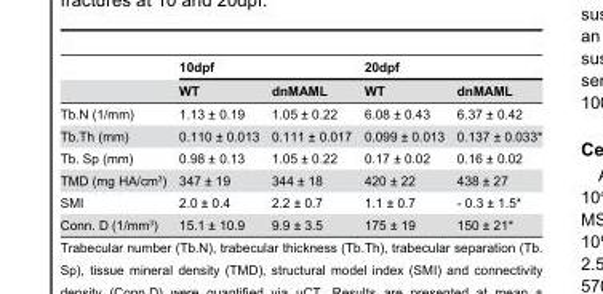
<table><thead><tr><td rowspan="2"></td><td colspan="2">10dpf</td><td colspan="2">20dpf</td></tr><tr><td>WT</td><td>dnMAML</td><td>WT</td><td>dnMAML</td></tr></thead><tbody><tr><td>Tb.N (1/mm)</td><td>1.13 ± 0.19</td><td>1.05 ± 0.22</td><td>6.08 ± 0.43</td><td>6.37 ± 0.42</td></tr><tr><td>Tb.Th (mm)</td><td>0.110 ± 0.013</td><td>0.111 ± 0.017</td><td>0.099 ± 0.013</td><td>0.137 ± 0.033*</td></tr><tr><td>Tb. Sp (mm)</td><td>0.98 ± 0.13</td><td>1.05 ± 0.22</td><td>0.17 ± 0.02</td><td>0.16 ± 0.02</td></tr><tr><td>TMD (mg HA/cm<sup>3</sup>)</td><td>347 ± 19</td><td>344 ± 18</td><td>420 ± 22</td><td>438 ± 27</td></tr><tr><td>SMI</td><td>2.0 ± 0.4</td><td>2.2 ± 0.7</td><td>1.1 ± 0.7</td><td>- 0.3 ± 1.5*</td></tr><tr><td>Conn. D (1/mm<sup>3</sup>)</td><td>15.1 ± 10.9</td><td>9.9 ± 3.5</td><td>175 ± 19</td><td>150 ± 21*</td></tr></tbody></table>